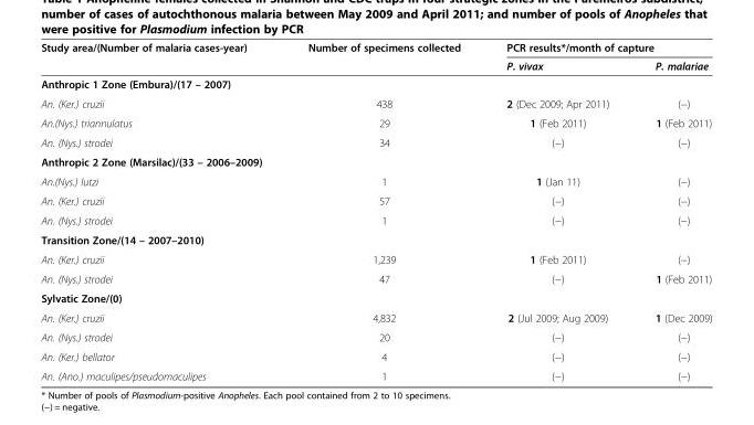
<table><thead><tr><td rowspan="2">Study area/(Number of malaria cases-year)</td><td rowspan="2">Number of specimens collected</td><td colspan="2">PCR results*/month of capture</td></tr><tr><td>P. vivax</td><td>P. malariae</td></tr></thead><tbody><tr><td colspan="4">Anthropic 1 Zone (Embura)/(17 – 2007)</td></tr><tr><td>An. (Ker.) cruzii</td><td>438</td><td>2 (Dec 2009; Apr 2011)</td><td>(−)</td></tr><tr><td>An.(Nys.) triannulatus</td><td>29</td><td>1 (Feb 2011)</td><td>1 (Feb 2011)</td></tr><tr><td>An. (Nys.) strodei</td><td>34</td><td>(−)</td><td>(−)</td></tr><tr><td colspan="4">Anthropic 2 Zone (Marsilac)/(33 – 2006–2009)</td></tr><tr><td>An.(Nys.) lutzi</td><td>1</td><td>1 (Jan 11)</td><td>(−)</td></tr><tr><td>An. (Ker.) cruzii</td><td>57</td><td>(−)</td><td>(−)</td></tr><tr><td>An. (Nys.) strodei</td><td>1</td><td>(−)</td><td>(−)</td></tr><tr><td colspan="4">Transition Zone/(14 – 2007–2010)</td></tr><tr><td>An. (Ker.) cruzii</td><td>1,239</td><td>1 (Feb 2011)</td><td>(−)</td></tr><tr><td>An. (Nys.) strodei</td><td>47</td><td>(−)</td><td>1 (Feb 2011)</td></tr><tr><td colspan="4">Sylvatic Zone/(0)</td></tr><tr><td>An. (Ker.) cruzii</td><td>4,832</td><td>2 (Jul 2009; Aug 2009)</td><td>1 (Dec 2009)</td></tr><tr><td>An. (Nys.) strodei</td><td>20</td><td>(−)</td><td>(−)</td></tr><tr><td>An. (Ker.) bellator</td><td>4</td><td>(−)</td><td>(−)</td></tr><tr><td>An. (Ano.) maculipes/pseudomaculipes</td><td>1</td><td>(−)</td><td>(−)</td></tr></tbody></table>